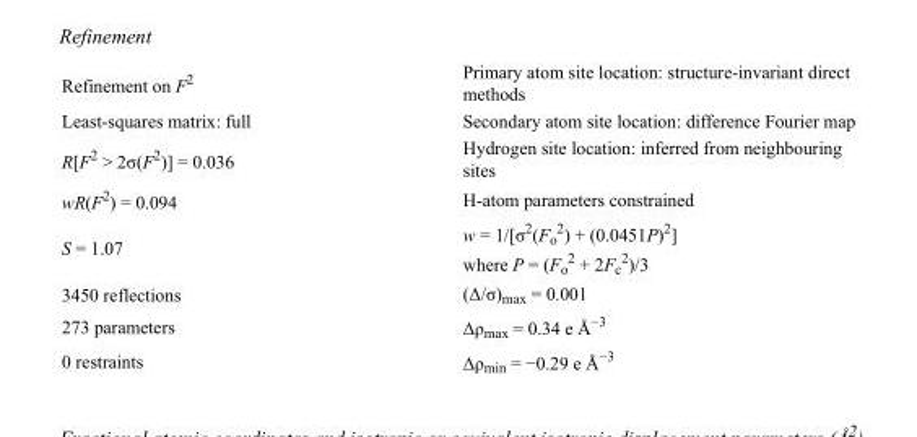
<table><tbody><tr><td>Refinement on F<sup>2</sup></td><td>Primary atom site location: structure-invariant direct methods</td></tr><tr><td>Least-squares matrix: full</td><td>Secondary atom site location: difference Fourier map</td></tr><tr><td>R[F<sup>2</sup> &gt; 2σ(F<sup>2</sup>)] = 0.036</td><td>Hydrogen site location: inferred from neighbouring sites</td></tr><tr><td>wR(F<sup>2</sup>) = 0.094</td><td>H-atom parameters constrained</td></tr><tr><td>S = 1.07</td><td>w = 1/[σ<sup>2</sup>(F<sub>o</sub> <sup>2</sup>) + (0.0451P)<sup>2</sup>] where P = (F<sub>o</sub> <sup>2</sup> + 2F<sub>c</sub> <sup>2</sup>)/3</td></tr><tr><td>3450 reflections</td><td>(Δ/σ)<sub>max</sub> = 0.001</td></tr><tr><td>273 parameters</td><td>Δρ<sub>max</sub> = 0.34 e Å<sup>−3</sup></td></tr><tr><td>0 restraints</td><td>Δρ<sub>min</sub> = −0.29 e Å<sup>−3</sup></td></tr></tbody></table>